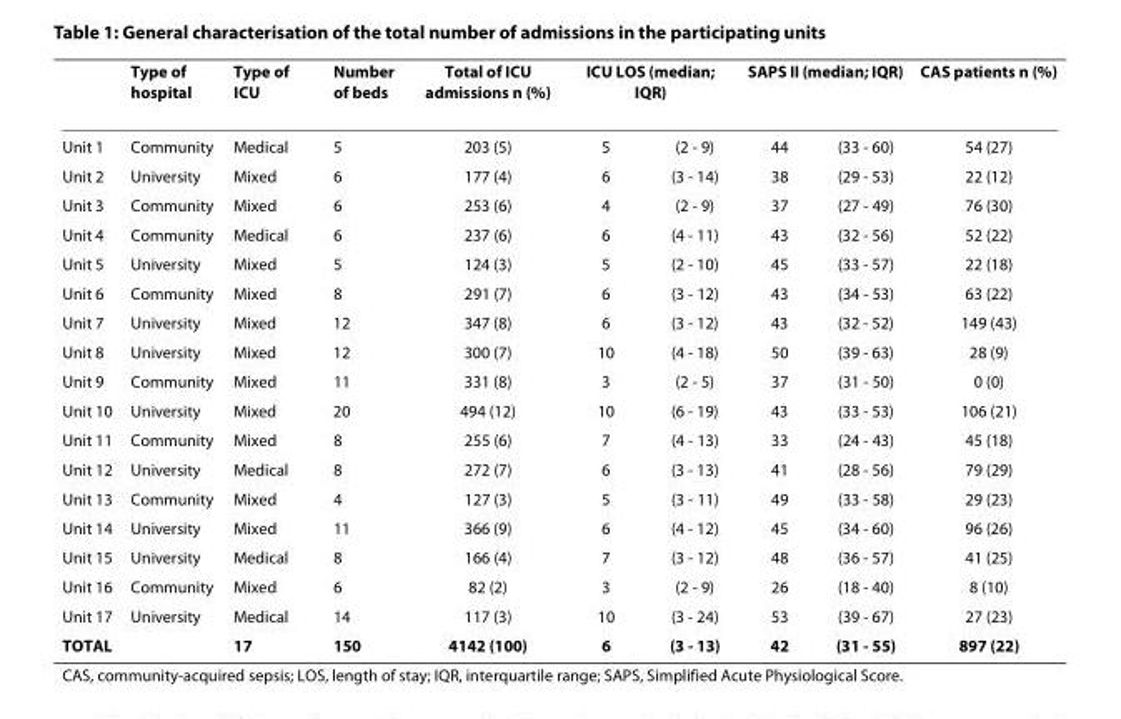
<table><thead><tr><td rowspan="2">Unit 1</td><td rowspan="2">Type of hospital Community</td><td rowspan="2">Type of ICU Medical</td><td rowspan="2">Number of beds 5</td><td rowspan="2">Total of ICU admissions n (%) 203 (5)</td><td colspan="2">ICU LOS (median; IQR)</td><td colspan="2">SAPS II (median; IQR)</td><td rowspan="2">CAS patients n (%) 54 (27)</td></tr><tr><td>5</td><td>(2 - 9)</td><td>44</td><td>(33 - 60)</td></tr></thead><tbody><tr><td>Unit 2</td><td>University</td><td>Mixed</td><td>6</td><td>177 (4)</td><td>6</td><td>(3 - 14)</td><td>38</td><td>(29 - 53)</td><td>22 (12)</td></tr><tr><td>Unit 3</td><td>Community</td><td>Mixed</td><td>6</td><td>253 (6)</td><td>4</td><td>(2 - 9)</td><td>37</td><td>(27 - 49)</td><td>76 (30)</td></tr><tr><td>Unit 4</td><td>Community</td><td>Medical</td><td>6</td><td>237 (6)</td><td>6</td><td>(4 - 11)</td><td>43</td><td>(32 - 56)</td><td>52 (22)</td></tr><tr><td>Unit 5</td><td>University</td><td>Mixed</td><td>5</td><td>124 (3)</td><td>5</td><td>(2 - 10)</td><td>45</td><td>(33 - 57)</td><td>22 (18)</td></tr><tr><td>Unit 6</td><td>Community</td><td>Mixed</td><td>8</td><td>291 (7)</td><td>6</td><td>(3 - 12)</td><td>43</td><td>(34 - 53)</td><td>63 (22)</td></tr><tr><td>Unit 7</td><td>University</td><td>Mixed</td><td>12</td><td>347 (8)</td><td>6</td><td>(3 - 12)</td><td>43</td><td>(32 - 52)</td><td>149 (43)</td></tr><tr><td>Unit 8</td><td>University</td><td>Mixed</td><td>12</td><td>300 (7)</td><td>10</td><td>(4 - 18)</td><td>50</td><td>(39 - 63)</td><td>28 (9)</td></tr><tr><td>Unit 9</td><td>Community</td><td>Mixed</td><td>11</td><td>331 (8)</td><td>3</td><td>(2 - 5)</td><td>37</td><td>(31 - 50)</td><td>0 (0)</td></tr><tr><td>Unit 10</td><td>University</td><td>Mixed</td><td>20</td><td>494 (12)</td><td>10</td><td>(6 - 19)</td><td>43</td><td>(33 - 53)</td><td>106 (21)</td></tr><tr><td>Unit 11</td><td>Community</td><td>Mixed</td><td>8</td><td>255 (6)</td><td>7</td><td>(4 - 13)</td><td>33</td><td>(24 - 43)</td><td>45 (18)</td></tr><tr><td>Unit 12</td><td>University</td><td>Medical</td><td>8</td><td>272 (7)</td><td>6</td><td>(3 - 13)</td><td>41</td><td>(28 - 56)</td><td>79 (29)</td></tr><tr><td>Unit 13</td><td>Community</td><td>Mixed</td><td>4</td><td>127 (3)</td><td>5</td><td>(3 - 11)</td><td>49</td><td>(33 - 58)</td><td>29 (23)</td></tr><tr><td>Unit 14</td><td>University</td><td>Mixed</td><td>11</td><td>366 (9)</td><td>6</td><td>(4 - 12)</td><td>45</td><td>(34 - 60)</td><td>96 (26)</td></tr><tr><td>Unit 15</td><td>University</td><td>Medical</td><td>8</td><td>166 (4)</td><td>7</td><td>(3 - 12)</td><td>48</td><td>(36 - 57)</td><td>41 (25)</td></tr><tr><td>Unit 16</td><td>Community</td><td>Mixed</td><td>6</td><td>82 (2)</td><td>3</td><td>(2 - 9)</td><td>26</td><td>(18 - 40)</td><td>8 (10)</td></tr><tr><td>Unit 17</td><td>University</td><td>Medical</td><td>14</td><td>117 (3)</td><td>10</td><td>(3 - 24)</td><td>53</td><td>(39 - 67)</td><td>27 (23)</td></tr><tr><td>TOTAL</td><td></td><td>17</td><td>150</td><td>4142 (100)</td><td>6</td><td>(3 - 13)</td><td>42</td><td>(31 - 55)</td><td>897 (22)</td></tr></tbody></table>